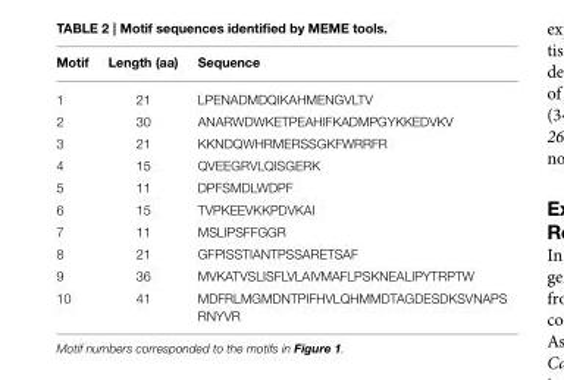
<table><thead><tr><td>Motif</td><td>Length (aa)</td><td>Sequence</td></tr></thead><tbody><tr><td>1</td><td>21</td><td>LPENADMDQIKAHMENGVLTV</td></tr><tr><td>2</td><td>30</td><td>ANARWDWKETPEAHIFKADMPGYKKEDVKV</td></tr><tr><td>3</td><td>21</td><td>KKNDQWHRMERSSGKFWRRFR</td></tr><tr><td>4</td><td>15</td><td>QVEEGRVLQISGERK</td></tr><tr><td>5</td><td>11</td><td>DPFSMDLWDPF</td></tr><tr><td>6</td><td>15</td><td>TVPKEEVKKPDVKAI</td></tr><tr><td>7</td><td>11</td><td>MSLIPSFFGGR</td></tr><tr><td>8</td><td>21</td><td>GFPISSTIANTPSSARETSAF</td></tr><tr><td>9</td><td>36</td><td>MVKATVSLISFLVLAIVMAFLPSKNEALIPYTRPTW</td></tr><tr><td>10</td><td>41</td><td>MDFRLMGMDNTPIFHVLQHMMDTAGDESDKSVNAPS RNYVR</td></tr></tbody></table>